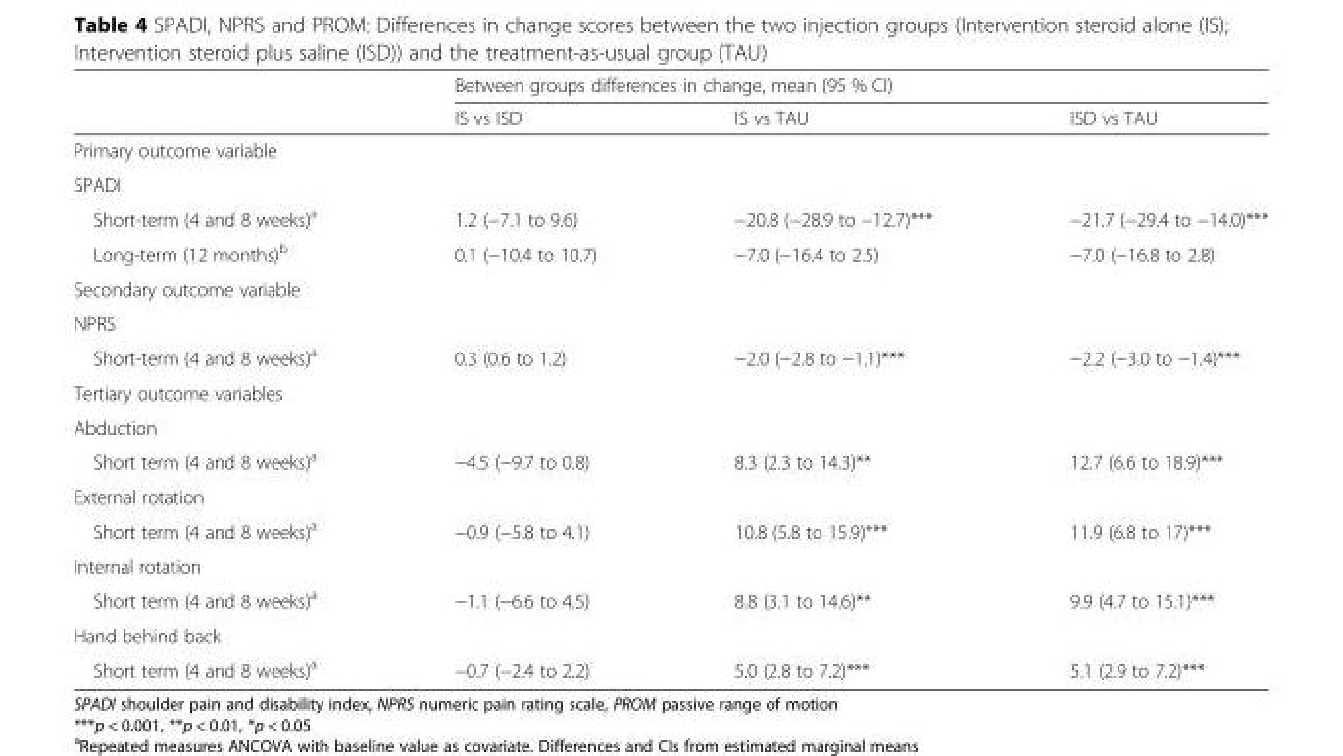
<table><thead><tr><td rowspan="2"></td><td colspan="3">Between groups differences in change, mean (95 % CI)</td></tr><tr><td>IS vs ISD</td><td>IS vs TAU</td><td>ISD vs TAU</td></tr></thead><tbody><tr><td colspan="4">Primary outcome variable</td></tr><tr><td colspan="4">SPADI</td></tr><tr><td>Short-term (4 and 8 weeks)<sup>a</sup></td><td>1.2 (−7.1 to 9.6)</td><td>−20.8 (−28.9 to −12.7)***</td><td>−21.7 (−29.4 to −14.0)***</td></tr><tr><td>Long-term (12 months)<sup>b</sup></td><td>0.1 (−10.4 to 10.7)</td><td>−7.0 (−16.4 to 2.5)</td><td>−7.0 (−16.8 to 2.8)</td></tr><tr><td colspan="4">Secondary outcome variable</td></tr><tr><td colspan="4">NPRS</td></tr><tr><td>Short-term (4 and 8 weeks)<sup>a</sup></td><td>0.3 (0.6 to 1.2)</td><td>−2.0 (−2.8 to −1.1)***</td><td>−2.2 (−3.0 to −1.4)***</td></tr><tr><td colspan="4">Tertiary outcome variables</td></tr><tr><td colspan="4">Abduction</td></tr><tr><td>Short term (4 and 8 weeks)<sup>a</sup></td><td>−4.5 (−9.7 to 0.8)</td><td>8.3 (2.3 to 14.3)**</td><td>12.7 (6.6 to 18.9)***</td></tr><tr><td colspan="4">External rotation</td></tr><tr><td>Short term (4 and 8 weeks)<sup>a</sup></td><td>−0.9 (−5.8 to 4.1)</td><td>10.8 (5.8 to 15.9)***</td><td>11.9 (6.8 to 17)***</td></tr><tr><td colspan="4">Internal rotation</td></tr><tr><td>Short term (4 and 8 weeks)<sup>a</sup></td><td>−1.1 (−6.6 to 4.5)</td><td>8.8 (3.1 to 14.6)**</td><td>9.9 (4.7 to 15.1)***</td></tr><tr><td colspan="4">Hand behind back</td></tr><tr><td>Short term (4 and 8 weeks)<sup>a</sup></td><td>−0.7 (−2.4 to 2.2)</td><td>5.0 (2.8 to 7.2)***</td><td>5.1 (2.9 to 7.2)***</td></tr></tbody></table>